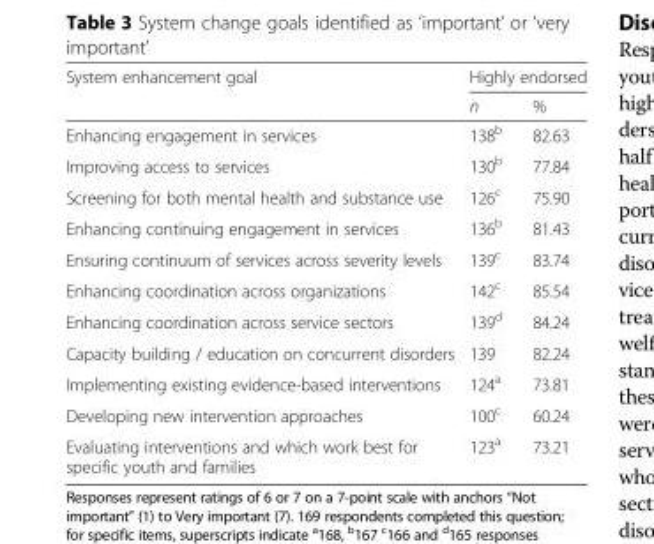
<table><thead><tr><td rowspan="2">System enhancement goal</td><td colspan="2">Highly endorsed</td></tr><tr><td>n</td><td>%</td></tr></thead><tbody><tr><td>Enhancing engagement in services</td><td>138<sup>b</sup></td><td>82.63</td></tr><tr><td>Improving access to services</td><td>130<sup>b</sup></td><td>77.84</td></tr><tr><td>Screening for both mental health and substance use</td><td>126<sup>c</sup></td><td>75.90</td></tr><tr><td>Enhancing continuing engagement in services</td><td>136<sup>b</sup></td><td>81.43</td></tr><tr><td>Ensuring continuum of services across severity levels</td><td>139<sup>c</sup></td><td>83.74</td></tr><tr><td>Enhancing coordination across organizations</td><td>142<sup>c</sup></td><td>85.54</td></tr><tr><td>Enhancing coordination across service sectors</td><td>139<sup>d</sup></td><td>84.24</td></tr><tr><td>Capacity building / education on concurrent disorders</td><td>139</td><td>82.24</td></tr><tr><td>Implementing existing evidence-based interventions</td><td>124<sup>a</sup></td><td>73.81</td></tr><tr><td>Developing new intervention approaches</td><td>100<sup>c</sup></td><td>60.24</td></tr><tr><td>Evaluating interventions and which work best for specific youth and families</td><td>123<sup>a</sup></td><td>73.21</td></tr></tbody></table>